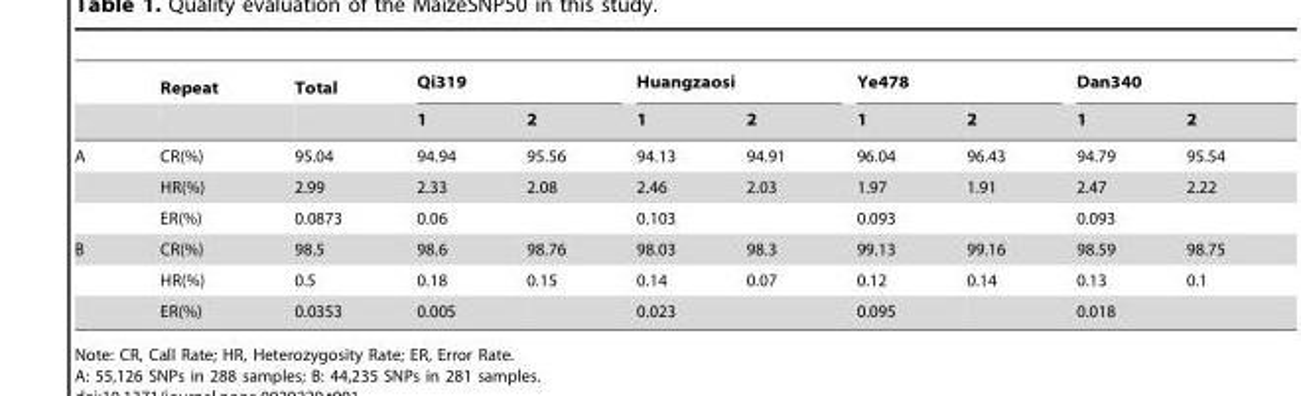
<table><thead><tr><td rowspan="2"></td><td rowspan="2">Repeat</td><td rowspan="2">Total</td><td colspan="2">Qi319</td><td colspan="2">Huangzaosi</td><td colspan="2">Ye478</td><td colspan="2">Dan340</td></tr><tr><td>1</td><td>2</td><td>1</td><td>2</td><td>1</td><td>2</td><td>1</td><td>2</td></tr></thead><tbody><tr><td rowspan="3">A</td><td>CR(%)</td><td>95.04</td><td>94.94</td><td>95.56</td><td>94.13</td><td>94.91</td><td>96.04</td><td>96.43</td><td>94.79</td><td>95.54</td></tr><tr><td>HR(%)</td><td>2.99</td><td>2.33</td><td>2.08</td><td>2.46</td><td>2.03</td><td>1.97</td><td>1.91</td><td>2.47</td><td>2.22</td></tr><tr><td>ER(%)</td><td>0.0873</td><td>0.06</td><td></td><td>0.103</td><td></td><td>0.093</td><td></td><td>0.093</td><td></td></tr><tr><td rowspan="3">B</td><td>CR(%)</td><td>98.5</td><td>98.6</td><td>98.76</td><td>98.03</td><td>98.3</td><td>99.13</td><td>99.16</td><td>98.59</td><td>98.75</td></tr><tr><td>HR(%)</td><td>0.5</td><td>0.18</td><td>0.15</td><td>0.14</td><td>0.07</td><td>0.12</td><td>0.14</td><td>0.13</td><td>0.1</td></tr><tr><td>ER(%)</td><td>0.0353</td><td>0.005</td><td></td><td>0.023</td><td></td><td>0.095</td><td></td><td>0.018</td><td></td></tr></tbody></table>